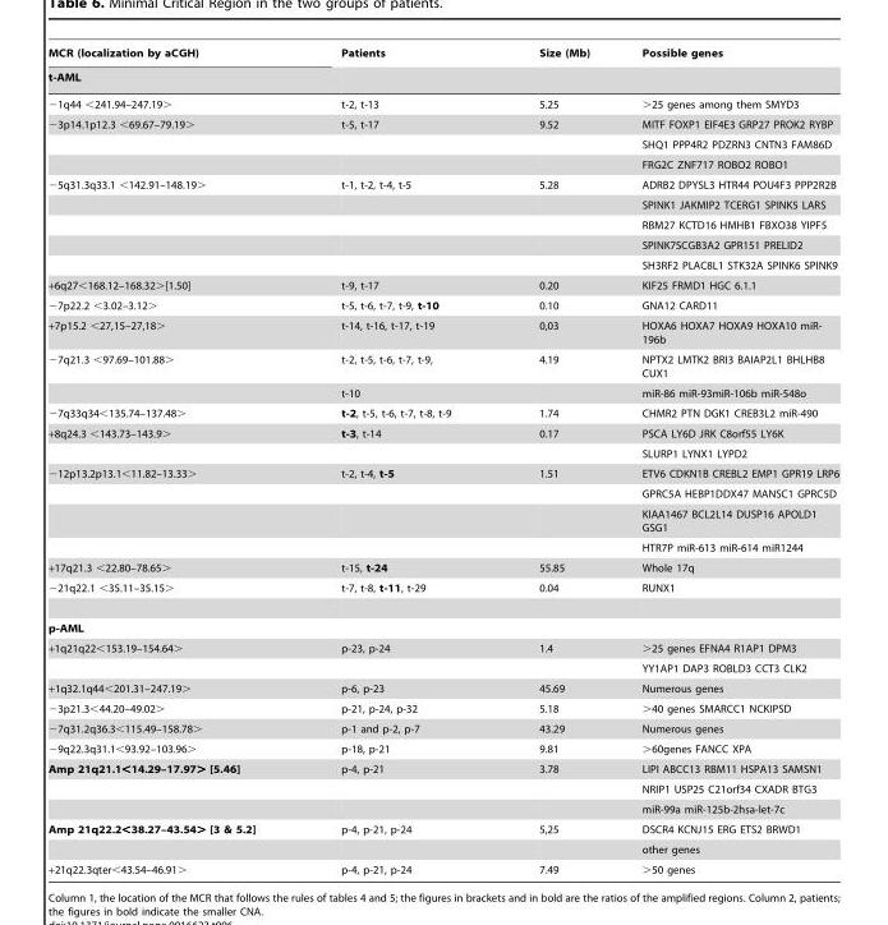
<table><thead><tr><td rowspan="2">MCR (localization by aCGH) t-AML</td><td rowspan="2">Patients</td><td rowspan="2">Size (Mb)</td><td rowspan="2">Possible genes</td></tr><tr></tr></thead><tbody><tr><td>−1q44 &lt;241.94–247.19&gt;</td><td>t-2, t-13</td><td>5.25</td><td>&gt;25 genes among them SMYD3</td></tr><tr><td rowspan="3">−3p14.1p12.3 &lt;69.67–79.19&gt;</td><td>t-5, t-17</td><td>9.52</td><td>MITF FOXP1 EIF4E3 GRP27 PROK2 RYBP</td></tr><tr><td></td><td></td><td>SHQ1 PPP4R2 PDZRN3 CNTN3 FAM86D</td></tr><tr><td></td><td></td><td>FRG2C ZNF717 ROBO2 ROBO1</td></tr><tr><td rowspan="5">−5q31.3q33.1 &lt;142.91–148.19&gt;</td><td>t-1, t-2, t-4, t-5</td><td>5.28</td><td>ADRB2 DPYSL3 HTR44 POU4F3 PPP2R2B</td></tr><tr><td></td><td></td><td>SPINK1 JAKMIP2 TCERG1 SPINK5 LARS</td></tr><tr><td></td><td></td><td>RBM27 KCTD16 HMHB1 FBXO38 YIPF5</td></tr><tr><td></td><td></td><td>SPINK7SCGB3A2 GPR151 PRELID2</td></tr><tr><td></td><td></td><td>SH3RF2 PLAC8L1 STK32A SPINK6 SPINK9</td></tr><tr><td>+6q27&lt;168.12–168.32&gt;[1.50]</td><td>t-9, t-17</td><td>0.20</td><td>KIF25 FRMD1 HGC 6.1.1</td></tr><tr><td>−7p22.2 &lt;3.02–3.12&gt;</td><td>t-5, t-6, t-7, t-9, t-10</td><td>0.10</td><td>GNA12 CARD11</td></tr><tr><td>+7p15.2 &lt;27,15–27,18&gt;</td><td>t-14, t-16, t-17, t-19</td><td>0,03</td><td>HOXA6 HOXA7 HOXA9 HOXA10 miR- 196b</td></tr><tr><td rowspan="2">−7q21.3 &lt;97.69–101.88&gt;</td><td>t-2, t-5, t-6, t-7, t-9,</td><td>4.19</td><td>NPTX2 LMTK2 BRI3 BAIAP2L1 BHLHB8 CUX1</td></tr><tr><td>t-10</td><td></td><td>miR-86 miR-93miR-106b miR-548o</td></tr><tr><td>−7q33q34&lt;135.74–137.48&gt;</td><td>t-2, t-5, t-6, t-7, t-8, t-9</td><td>1.74</td><td>CHMR2 PTN DGK1 CREB3L2 miR-490</td></tr><tr><td rowspan="2">+8q24.3 &lt;143.73–143.9&gt;</td><td>t-3, t-14</td><td>0.17</td><td>PSCA LY6D JRK C8orf55 LY6K</td></tr><tr><td></td><td></td><td>SLURP1 LYNX1 LYPD2</td></tr><tr><td rowspan="4">−12p13.2p13.1&lt;11.82–13.33&gt;</td><td>t-2, t-4, t-5</td><td>1.51</td><td>ETV6 CDKN1B CREBL2 EMP1 GPR19 LRP6</td></tr><tr><td></td><td></td><td>GPRC5A HEBP1DDX47 MANSC1 GPRC5D</td></tr><tr><td></td><td></td><td>KIAA1467 BCL2L14 DUSP16 APOLD1 GSG1</td></tr><tr><td></td><td></td><td>HTR7P miR-613 miR-614 miR1244</td></tr><tr><td>+17q21.3 &lt;22.80–78.65&gt;</td><td>t-15, t-24</td><td>55.85</td><td>Whole 17q</td></tr><tr><td>−21q22.1 &lt;35.11–35.15&gt;</td><td>t-7, t-8, t-11, t-29</td><td>0.04</td><td>RUNX1</td></tr><tr><td colspan="4">p-AML</td></tr><tr><td rowspan="2">+1q21q22&lt;153.19–154.64&gt;</td><td>p-23, p-24</td><td>1.4</td><td>&gt;25 genes EFNA4 R1AP1 DPM3</td></tr><tr><td></td><td></td><td>YY1AP1 DAP3 ROBLD3 CCT3 CLK2</td></tr><tr><td>+1q32.1q44&lt;201.31–247.19&gt;</td><td>p-6, p-23</td><td>45.69</td><td>Numerous genes</td></tr><tr><td>−3p21.3&lt;44.20–49.02&gt;</td><td>p-21, p-24, p-32</td><td>5.18</td><td>&gt;40 genes SMARCC1 NCKIPSD</td></tr><tr><td>−7q31.2q36.3&lt;115.49–158.78&gt;</td><td>p-1 and p-2, p-7</td><td>43.29</td><td>Numerous genes</td></tr><tr><td>−9q22.3q31.1&lt;93.92–103.96&gt;</td><td>p-18, p-21</td><td>9.81</td><td>&gt;60genes FANCC XPA</td></tr><tr><td rowspan="3">Amp 21q21.1&lt;14.29–17.97&gt; [5.46]</td><td>p-4, p-21</td><td>3.78</td><td>LIPI ABCC13 RBM11 HSPA13 SAMSN1</td></tr><tr><td></td><td></td><td>NRIP1 USP25 C21orf34 CXADR BTG3</td></tr><tr><td></td><td></td><td>miR-99a miR-125b-2hsa-let-7c</td></tr><tr><td rowspan="2">Amp 21q22.2&lt;38.27–43.54&gt; [3 &amp; 5.2]</td><td>p-4, p-21, p-24</td><td>5,25</td><td>DSCR4 KCNJ15 ERG ETS2 BRWD1</td></tr><tr><td></td><td></td><td>other genes</td></tr><tr><td>+21q22.3qter&lt;43.54–46.91&gt;</td><td>p-4, p-21, p-24</td><td>7.49</td><td>&gt;50 genes</td></tr></tbody></table>